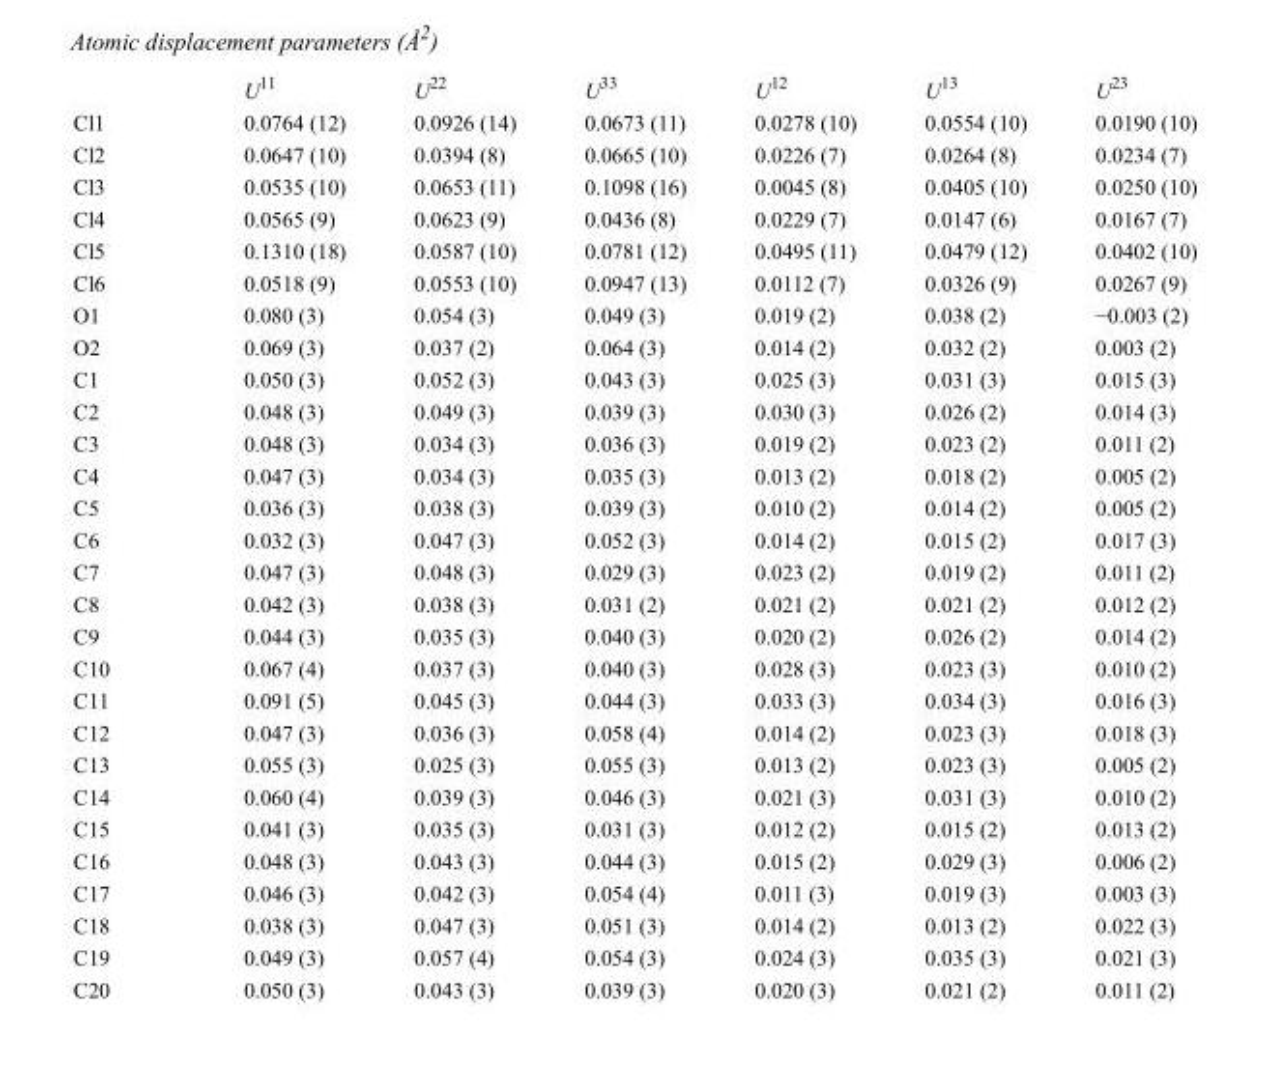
<table><thead><tr><td></td><td>U<sup>11</sup></td><td>U<sup>22</sup></td><td>U<sup>33</sup></td><td>U<sup>12</sup></td><td>U<sup>13</sup></td><td>U<sup>23</sup></td></tr></thead><tbody><tr><td>Cl1</td><td>0.0764 (12)</td><td>0.0926 (14)</td><td>0.0673 (11)</td><td>0.0278 (10)</td><td>0.0554 (10)</td><td>0.0190 (10)</td></tr><tr><td>Cl2</td><td>0.0647 (10)</td><td>0.0394 (8)</td><td>0.0665 (10)</td><td>0.0226 (7)</td><td>0.0264 (8)</td><td>0.0234 (7)</td></tr><tr><td>Cl3</td><td>0.0535 (10)</td><td>0.0653 (11)</td><td>0.1098 (16)</td><td>0.0045 (8)</td><td>0.0405 (10)</td><td>0.0250 (10)</td></tr><tr><td>Cl4</td><td>0.0565 (9)</td><td>0.0623 (9)</td><td>0.0436 (8)</td><td>0.0229 (7)</td><td>0.0147 (6)</td><td>0.0167 (7)</td></tr><tr><td>Cl5</td><td>0.1310 (18)</td><td>0.0587 (10)</td><td>0.0781 (12)</td><td>0.0495 (11)</td><td>0.0479 (12)</td><td>0.0402 (10)</td></tr><tr><td>Cl6</td><td>0.0518 (9)</td><td>0.0553 (10)</td><td>0.0947 (13)</td><td>0.0112 (7)</td><td>0.0326 (9)</td><td>0.0267 (9)</td></tr><tr><td>O1</td><td>0.080 (3)</td><td>0.054 (3)</td><td>0.049 (3)</td><td>0.019 (2)</td><td>0.038 (2)</td><td>−0.003 (2)</td></tr><tr><td>O2</td><td>0.069 (3)</td><td>0.037 (2)</td><td>0.064 (3)</td><td>0.014 (2)</td><td>0.032 (2)</td><td>0.003 (2)</td></tr><tr><td>C1</td><td>0.050 (3)</td><td>0.052 (3)</td><td>0.043 (3)</td><td>0.025 (3)</td><td>0.031 (3)</td><td>0.015 (3)</td></tr><tr><td>C2</td><td>0.048 (3)</td><td>0.049 (3)</td><td>0.039 (3)</td><td>0.030 (3)</td><td>0.026 (2)</td><td>0.014 (3)</td></tr><tr><td>C3</td><td>0.048 (3)</td><td>0.034 (3)</td><td>0.036 (3)</td><td>0.019 (2)</td><td>0.023 (2)</td><td>0.011 (2)</td></tr><tr><td>C4</td><td>0.047 (3)</td><td>0.034 (3)</td><td>0.035 (3)</td><td>0.013 (2)</td><td>0.018 (2)</td><td>0.005 (2)</td></tr><tr><td>C5</td><td>0.036 (3)</td><td>0.038 (3)</td><td>0.039 (3)</td><td>0.010 (2)</td><td>0.014 (2)</td><td>0.005 (2)</td></tr><tr><td>C6</td><td>0.032 (3)</td><td>0.047 (3)</td><td>0.052 (3)</td><td>0.014 (2)</td><td>0.015 (2)</td><td>0.017 (3)</td></tr><tr><td>C7</td><td>0.047 (3)</td><td>0.048 (3)</td><td>0.029 (3)</td><td>0.023 (2)</td><td>0.019 (2)</td><td>0.011 (2)</td></tr><tr><td>C8</td><td>0.042 (3)</td><td>0.038 (3)</td><td>0.031 (2)</td><td>0.021 (2)</td><td>0.021 (2)</td><td>0.012 (2)</td></tr><tr><td>C9</td><td>0.044 (3)</td><td>0.035 (3)</td><td>0.040 (3)</td><td>0.020 (2)</td><td>0.026 (2)</td><td>0.014 (2)</td></tr><tr><td>C10</td><td>0.067 (4)</td><td>0.037 (3)</td><td>0.040 (3)</td><td>0.028 (3)</td><td>0.023 (3)</td><td>0.010 (2)</td></tr><tr><td>C11</td><td>0.091 (5)</td><td>0.045 (3)</td><td>0.044 (3)</td><td>0.033 (3)</td><td>0.034 (3)</td><td>0.016 (3)</td></tr><tr><td>C12</td><td>0.047 (3)</td><td>0.036 (3)</td><td>0.058 (4)</td><td>0.014 (2)</td><td>0.023 (3)</td><td>0.018 (3)</td></tr><tr><td>C13</td><td>0.055 (3)</td><td>0.025 (3)</td><td>0.055 (3)</td><td>0.013 (2)</td><td>0.023 (3)</td><td>0.005 (2)</td></tr><tr><td>C14</td><td>0.060 (4)</td><td>0.039 (3)</td><td>0.046 (3)</td><td>0.021 (3)</td><td>0.031 (3)</td><td>0.010 (2)</td></tr><tr><td>C15</td><td>0.041 (3)</td><td>0.035 (3)</td><td>0.031 (3)</td><td>0.012 (2)</td><td>0.015 (2)</td><td>0.013 (2)</td></tr><tr><td>C16</td><td>0.048 (3)</td><td>0.043 (3)</td><td>0.044 (3)</td><td>0.015 (2)</td><td>0.029 (3)</td><td>0.006 (2)</td></tr><tr><td>C17</td><td>0.046 (3)</td><td>0.042 (3)</td><td>0.054 (4)</td><td>0.011 (3)</td><td>0.019 (3)</td><td>0.003 (3)</td></tr><tr><td>C18</td><td>0.038 (3)</td><td>0.047 (3)</td><td>0.051 (3)</td><td>0.014 (2)</td><td>0.013 (2)</td><td>0.022 (3)</td></tr><tr><td>C19</td><td>0.049 (3)</td><td>0.057 (4)</td><td>0.054 (3)</td><td>0.024 (3)</td><td>0.035 (3)</td><td>0.021 (3)</td></tr><tr><td>C20</td><td>0.050 (3)</td><td>0.043 (3)</td><td>0.039 (3)</td><td>0.020 (3)</td><td>0.021 (2)</td><td>0.011 (2)</td></tr></tbody></table>